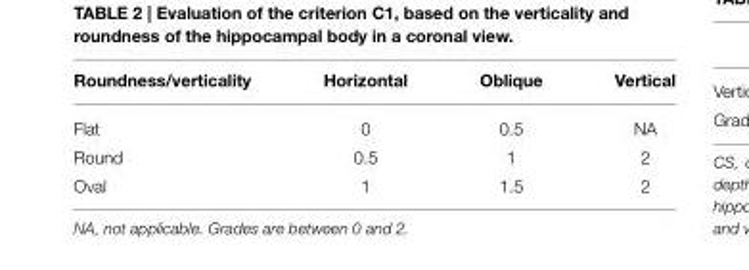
<table><thead><tr><td>Roundness/verticality</td><td>Horizontal</td><td>Oblique</td><td>Vertical</td></tr></thead><tbody><tr><td>Flat</td><td>0</td><td>0.5</td><td>NA</td></tr><tr><td>Round</td><td>0.5</td><td>1</td><td>2</td></tr><tr><td>Oval</td><td>1</td><td>1.5</td><td>2</td></tr></tbody></table>